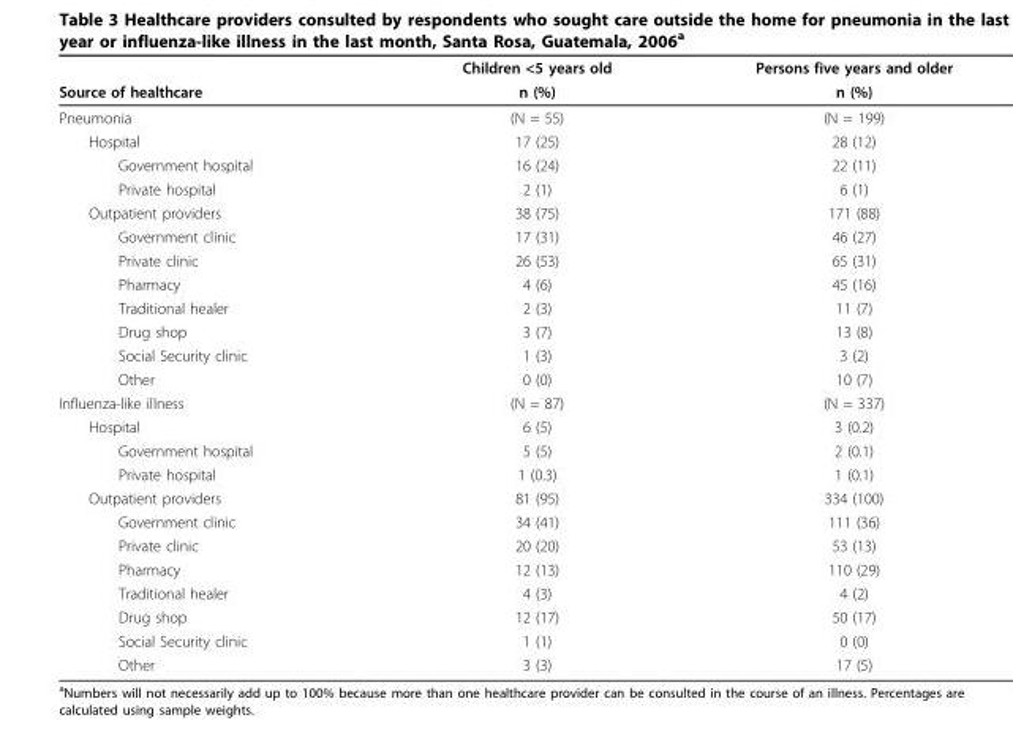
<table><thead><tr><td rowspan="2">Source of healthcare</td><td rowspan="2">Children &lt;5 years old n (%)</td><td rowspan="2">Persons five years and older n (%)</td></tr><tr></tr></thead><tbody><tr><td>Pneumonia</td><td>(N = 55)</td><td>(N = 199)</td></tr><tr><td>Hospital</td><td>17 (25)</td><td>28 (12)</td></tr><tr><td>Government hospital</td><td>16 (24)</td><td>22 (11)</td></tr><tr><td>Private hospital</td><td>2 (1)</td><td>6 (1)</td></tr><tr><td>Outpatient providers</td><td>38 (75)</td><td>171 (88)</td></tr><tr><td>Government clinic</td><td>17 (31)</td><td>46 (27)</td></tr><tr><td>Private clinic</td><td>26 (53)</td><td>65 (31)</td></tr><tr><td>Pharmacy</td><td>4 (6)</td><td>45 (16)</td></tr><tr><td>Traditional healer</td><td>2 (3)</td><td>11 (7)</td></tr><tr><td>Drug shop</td><td>3 (7)</td><td>13 (8)</td></tr><tr><td>Social Security clinic</td><td>1 (3)</td><td>3 (2)</td></tr><tr><td>Other</td><td>0 (0)</td><td>10 (7)</td></tr><tr><td>Influenza-like illness</td><td>(N = 87)</td><td>(N = 337)</td></tr><tr><td>Hospital</td><td>6 (5)</td><td>3 (0.2)</td></tr><tr><td>Government hospital</td><td>5 (5)</td><td>2 (0.1)</td></tr><tr><td>Private hospital</td><td>1 (0.3)</td><td>1 (0.1)</td></tr><tr><td>Outpatient providers</td><td>81 (95)</td><td>334 (100)</td></tr><tr><td>Government clinic</td><td>34 (41)</td><td>111 (36)</td></tr><tr><td>Private clinic</td><td>20 (20)</td><td>53 (13)</td></tr><tr><td>Pharmacy</td><td>12 (13)</td><td>110 (29)</td></tr><tr><td>Traditional healer</td><td>4 (3)</td><td>4 (2)</td></tr><tr><td>Drug shop</td><td>12 (17)</td><td>50 (17)</td></tr><tr><td>Social Security clinic</td><td>1 (1)</td><td>0 (0)</td></tr><tr><td>Other</td><td>3 (3)</td><td>17 (5)</td></tr></tbody></table>